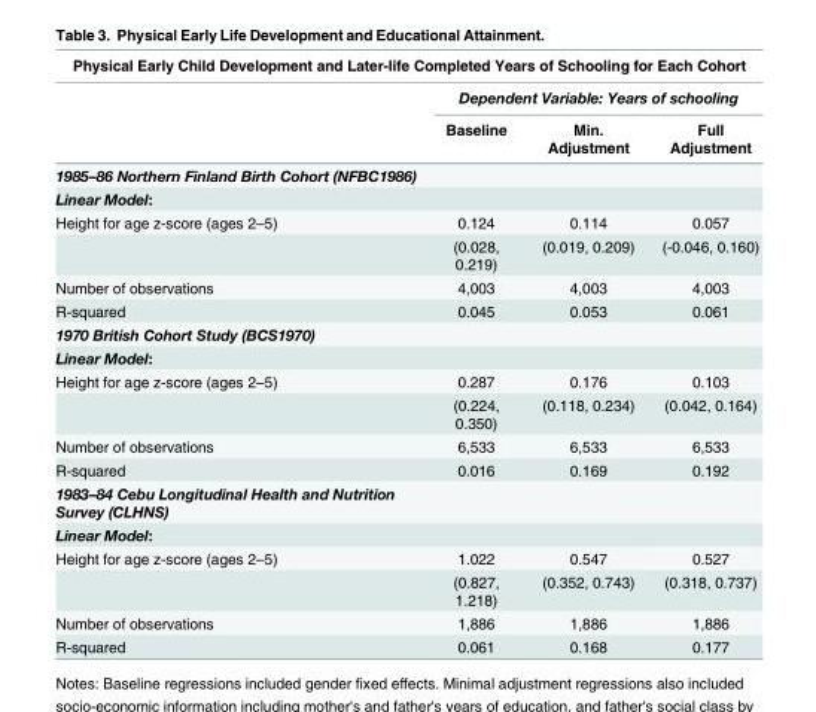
<table><thead><tr><td colspan="4">Physical Early Child Development and Later-life Completed Years of Schooling for Each Cohort</td></tr><tr><td rowspan="2"></td><td colspan="3">Dependent Variable: Years of schooling</td></tr><tr><td>Baseline</td><td>Min. Adjustment</td><td>Full Adjustment</td></tr></thead><tbody><tr><td colspan="4">1985–86 Northern Finland Birth Cohort (NFBC1986)</td></tr><tr><td colspan="4">Linear Model:</td></tr><tr><td rowspan="2">Height for age z-score (ages 2–5)</td><td>0.124</td><td>0.114</td><td>0.057</td></tr><tr><td>(0.028, 0.219)</td><td>(0.019, 0.209)</td><td>(-0.046, 0.160)</td></tr><tr><td>Number of observations</td><td>4,003</td><td>4,003</td><td>4,003</td></tr><tr><td>R-squared</td><td>0.045</td><td>0.053</td><td>0.061</td></tr><tr><td colspan="4">1970 British Cohort Study (BCS1970)</td></tr><tr><td colspan="4">Linear Model:</td></tr><tr><td rowspan="2">Height for age z-score (ages 2–5)</td><td>0.287</td><td>0.176</td><td>0.103</td></tr><tr><td>(0.224, 0.350)</td><td>(0.118, 0.234)</td><td>(0.042, 0.164)</td></tr><tr><td>Number of observations</td><td>6,533</td><td>6,533</td><td>6,533</td></tr><tr><td>R-squared</td><td>0.016</td><td>0.169</td><td>0.192</td></tr><tr><td colspan="4">1983–84 Cebu Longitudinal Health and Nutrition Survey (CLHNS)</td></tr><tr><td colspan="4">Linear Model:</td></tr><tr><td rowspan="2">Height for age z-score (ages 2–5)</td><td>1.022</td><td>0.547</td><td>0.527</td></tr><tr><td>(0.827, 1.218)</td><td>(0.352, 0.743)</td><td>(0.318, 0.737)</td></tr><tr><td>Number of observations</td><td>1,886</td><td>1,886</td><td>1,886</td></tr><tr><td>R-squared</td><td>0.061</td><td>0.168</td><td>0.177</td></tr></tbody></table>